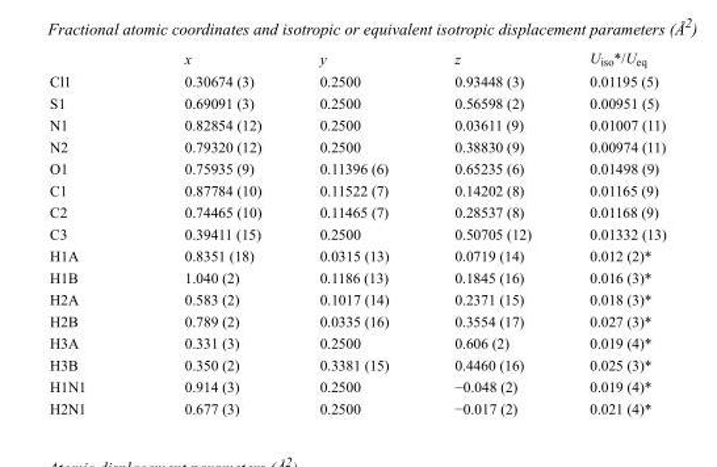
<table><thead><tr><td></td><td>x</td><td>y</td><td>z</td><td>U<sub>iso</sub>*/U<sub>eq</sub></td></tr></thead><tbody><tr><td>Cl1</td><td>0.30674 (3)</td><td>0.2500</td><td>0.93448 (3)</td><td>0.01195 (5)</td></tr><tr><td>S1</td><td>0.69091 (3)</td><td>0.2500</td><td>0.56598 (2)</td><td>0.00951 (5)</td></tr><tr><td>N1</td><td>0.82854 (12)</td><td>0.2500</td><td>0.03611 (9)</td><td>0.01007 (11)</td></tr><tr><td>N2</td><td>0.79320 (12)</td><td>0.2500</td><td>0.38830 (9)</td><td>0.00974 (11)</td></tr><tr><td>O1</td><td>0.75935 (9)</td><td>0.11396 (6)</td><td>0.65235 (6)</td><td>0.01498 (9)</td></tr><tr><td>C1</td><td>0.87784 (10)</td><td>0.11522 (7)</td><td>0.14202 (8)</td><td>0.01165 (9)</td></tr><tr><td>C2</td><td>0.74465 (10)</td><td>0.11465 (7)</td><td>0.28537 (8)</td><td>0.01168 (9)</td></tr><tr><td>C3</td><td>0.39411 (15)</td><td>0.2500</td><td>0.50705 (12)</td><td>0.01332 (13)</td></tr><tr><td>H1A</td><td>0.8351 (18)</td><td>0.0315 (13)</td><td>0.0719 (14)</td><td>0.012 (2)*</td></tr><tr><td>H1B</td><td>1.040 (2)</td><td>0.1186 (13)</td><td>0.1845 (16)</td><td>0.016 (3)*</td></tr><tr><td>H2A</td><td>0.583 (2)</td><td>0.1017 (14)</td><td>0.2371 (15)</td><td>0.018 (3)*</td></tr><tr><td>H2B</td><td>0.789 (2)</td><td>0.0335 (16)</td><td>0.3554 (17)</td><td>0.027 (3)*</td></tr><tr><td>H3A</td><td>0.331 (3)</td><td>0.2500</td><td>0.606 (2)</td><td>0.019 (4)*</td></tr><tr><td>H3B</td><td>0.350 (2)</td><td>0.3381 (15)</td><td>0.4460 (16)</td><td>0.025 (3)*</td></tr><tr><td>H1N1</td><td>0.914 (3)</td><td>0.2500</td><td>−0.048 (2)</td><td>0.019 (4)*</td></tr><tr><td>H2N1</td><td>0.677 (3)</td><td>0.2500</td><td>−0.017 (2)</td><td>0.021 (4)*</td></tr></tbody></table>